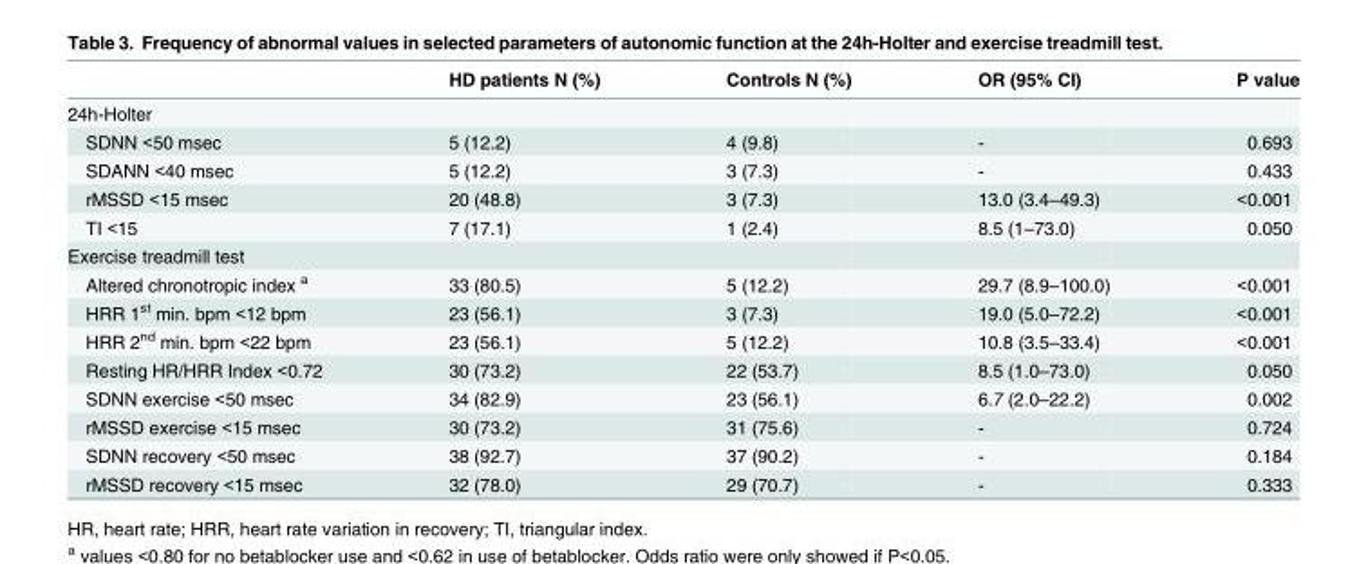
<table><thead><tr><td></td><td>HD patients N (%)</td><td>Controls N (%)</td><td>OR (95% CI)</td><td>P value</td></tr></thead><tbody><tr><td colspan="5">24h-Holter</td></tr><tr><td>SDNN &lt;50 msec</td><td>5 (12.2)</td><td>4 (9.8)</td><td>-</td><td>0.693</td></tr><tr><td>SDANN &lt;40 msec</td><td>5 (12.2)</td><td>3 (7.3)</td><td>-</td><td>0.433</td></tr><tr><td>rMSSD &lt;15 msec</td><td>20 (48.8)</td><td>3 (7.3)</td><td>13.0 (3.4–49.3)</td><td>&lt;0.001</td></tr><tr><td>TI &lt;15</td><td>7 (17.1)</td><td>1 (2.4)</td><td>8.5 (1–73.0)</td><td>0.050</td></tr><tr><td colspan="5">Exercise treadmill test</td></tr><tr><td>Altered chronotropic index <sup>a</sup></td><td>33 (80.5)</td><td>5 (12.2)</td><td>29.7 (8.9–100.0)</td><td>&lt;0.001</td></tr><tr><td>HRR 1<sup>st</sup> min. bpm &lt;12 bpm</td><td>23 (56.1)</td><td>3 (7.3)</td><td>19.0 (5.0–72.2)</td><td>&lt;0.001</td></tr><tr><td>HRR 2<sup>nd</sup> min. bpm &lt;22 bpm</td><td>23 (56.1)</td><td>5 (12.2)</td><td>10.8 (3.5–33.4)</td><td>&lt;0.001</td></tr><tr><td>Resting HR/HRR Index &lt;0.72</td><td>30 (73.2)</td><td>22 (53.7)</td><td>8.5 (1.0–73.0)</td><td>0.050</td></tr><tr><td>SDNN exercise &lt;50 msec</td><td>34 (82.9)</td><td>23 (56.1)</td><td>6.7 (2.0–22.2)</td><td>0.002</td></tr><tr><td>rMSSD exercise &lt;15 msec</td><td>30 (73.2)</td><td>31 (75.6)</td><td>-</td><td>0.724</td></tr><tr><td>SDNN recovery &lt;50 msec</td><td>38 (92.7)</td><td>37 (90.2)</td><td>-</td><td>0.184</td></tr><tr><td>rMSSD recovery &lt;15 msec</td><td>32 (78.0)</td><td>29 (70.7)</td><td>-</td><td>0.333</td></tr></tbody></table>